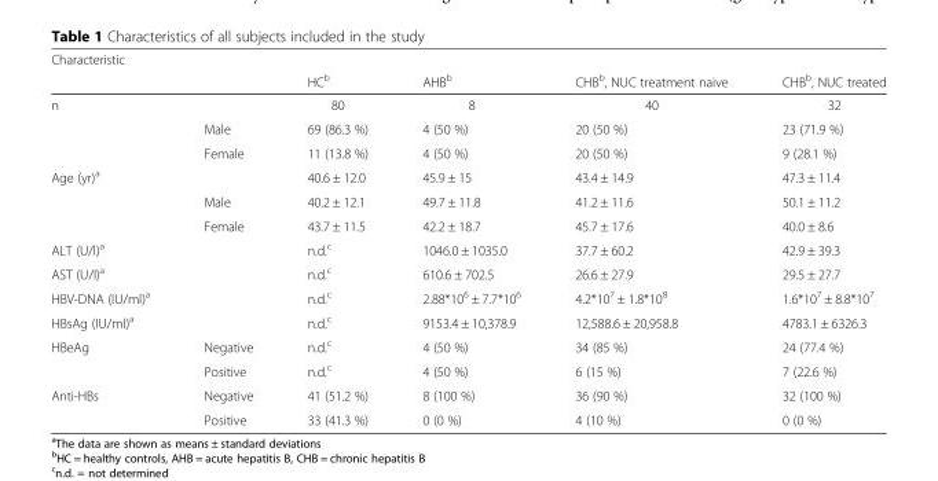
<table><thead><tr><td colspan="2">Characteristic</td><td rowspan="2">HC<sup>b</sup></td><td rowspan="2">AHB<sup>b</sup></td><td rowspan="2">CHB<sup>b</sup>, NUC treatment naive</td><td rowspan="2">CHB<sup>b</sup>, NUC treated</td></tr><tr><td></td><td></td></tr></thead><tbody><tr><td rowspan="3">n</td><td></td><td>80</td><td>8</td><td>40</td><td>32</td></tr><tr><td>Male</td><td>69 (86.3 %)</td><td>4 (50 %)</td><td>20 (50 %)</td><td>23 (71.9 %)</td></tr><tr><td>Female</td><td>11 (13.8 %)</td><td>4 (50 %)</td><td>20 (50 %)</td><td>9 (28.1 %)</td></tr><tr><td rowspan="3">Age (yr)<sup>a</sup></td><td></td><td>40.6 ± 12.0</td><td>45.9 ± 15</td><td>43.4 ± 14.9</td><td>47.3 ± 11.4</td></tr><tr><td>Male</td><td>40.2 ± 12.1</td><td>49.7 ± 11.8</td><td>41.2 ± 11.6</td><td>50.1 ± 11.2</td></tr><tr><td>Female</td><td>43.7 ± 11.5</td><td>42.2 ± 18.7</td><td>45.7 ± 17.6</td><td>40.0 ± 8.6</td></tr><tr><td>ALT (U/l)<sup>a</sup></td><td></td><td>n.d.<sup>c</sup></td><td>1046.0 ± 1035.0</td><td>37.7 ± 60.2</td><td>42.9 ± 39.3</td></tr><tr><td>AST (U/l)<sup>a</sup></td><td></td><td>n.d.<sup>c</sup></td><td>610.6 ± 702.5</td><td>26.6 ± 27.9</td><td>29.5 ± 27.7</td></tr><tr><td>HBV-DNA (IU/ml)<sup>a</sup></td><td></td><td>n.d.<sup>c</sup></td><td>2.88*10<sup>6</sup> ± 7.7*10<sup>6</sup></td><td>4.2*10<sup>7</sup> ± 1.8*10<sup>8</sup></td><td>1.6*10<sup>7</sup> ± 8.8*10<sup>7</sup></td></tr><tr><td>HBsAg (IU/ml)<sup>a</sup></td><td></td><td>n.d.<sup>c</sup></td><td>9153.4 ± 10,378.9</td><td>12,588.6 ± 20,958.8</td><td>4783.1 ± 6326.3</td></tr><tr><td rowspan="2">HBeAg</td><td>Negative</td><td>n.d.<sup>c</sup></td><td>4 (50 %)</td><td>34 (85 %)</td><td>24 (77.4 %)</td></tr><tr><td>Positive</td><td>n.d.<sup>c</sup></td><td>4 (50 %)</td><td>6 (15 %)</td><td>7 (22.6 %)</td></tr><tr><td rowspan="2">Anti-HBs</td><td>Negative</td><td>41 (51.2 %)</td><td>8 (100 %)</td><td>36 (90 %)</td><td>32 (100 %)</td></tr><tr><td>Positive</td><td>33 (41.3 %)</td><td>0 (0 %)</td><td>4 (10 %)</td><td>0 (0 %)</td></tr></tbody></table>